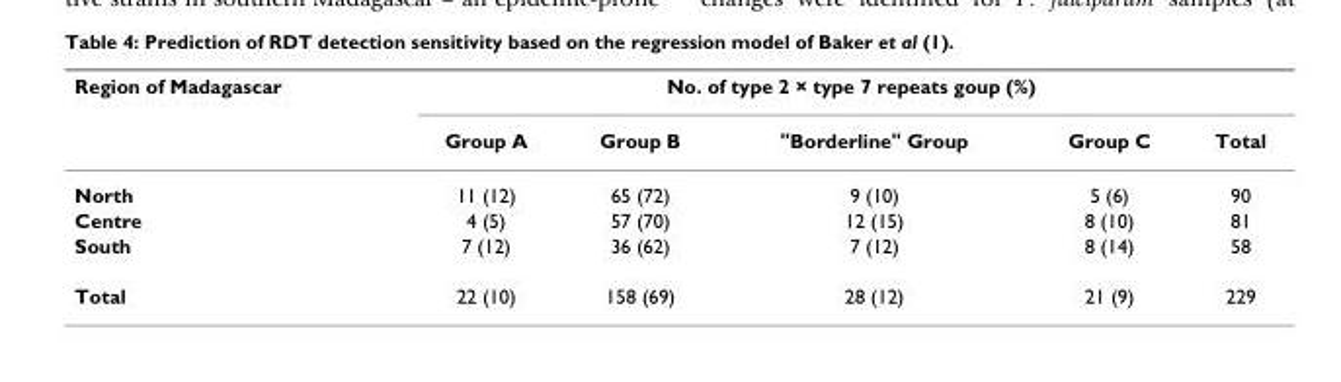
<table><thead><tr><td rowspan="2">Region of Madagascar</td><td colspan="5">No. of type 2 × type 7 repeats goup (%)</td></tr><tr><td>Group A</td><td>Group B</td><td>&quot;Borderline&quot; Group</td><td>Group C</td><td>Total</td></tr></thead><tbody><tr><td>North</td><td>11 (12)</td><td>65 (72)</td><td>9 (10)</td><td>5 (6)</td><td>90</td></tr><tr><td>Centre</td><td>4 (5)</td><td>57 (70)</td><td>12 (15)</td><td>8 (10)</td><td>81</td></tr><tr><td>South</td><td>7 (12)</td><td>36 (62)</td><td>7 (12)</td><td>8 (14)</td><td>58</td></tr><tr><td>Total</td><td>22 (10)</td><td>158 (69)</td><td>28 (12)</td><td>21 (9)</td><td>229</td></tr></tbody></table>